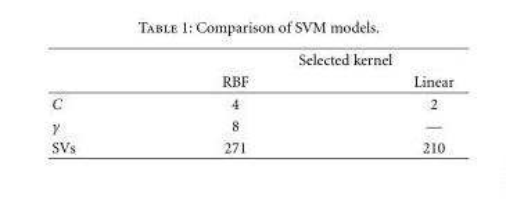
<table><thead><tr><td rowspan="2"></td><td colspan="2">Selected kernel</td></tr><tr><td>RBF</td><td>Linear</td></tr></thead><tbody><tr><td>C</td><td>4</td><td>2</td></tr><tr><td>γ</td><td>8</td><td>—</td></tr><tr><td>SVs</td><td>271</td><td>210</td></tr></tbody></table>